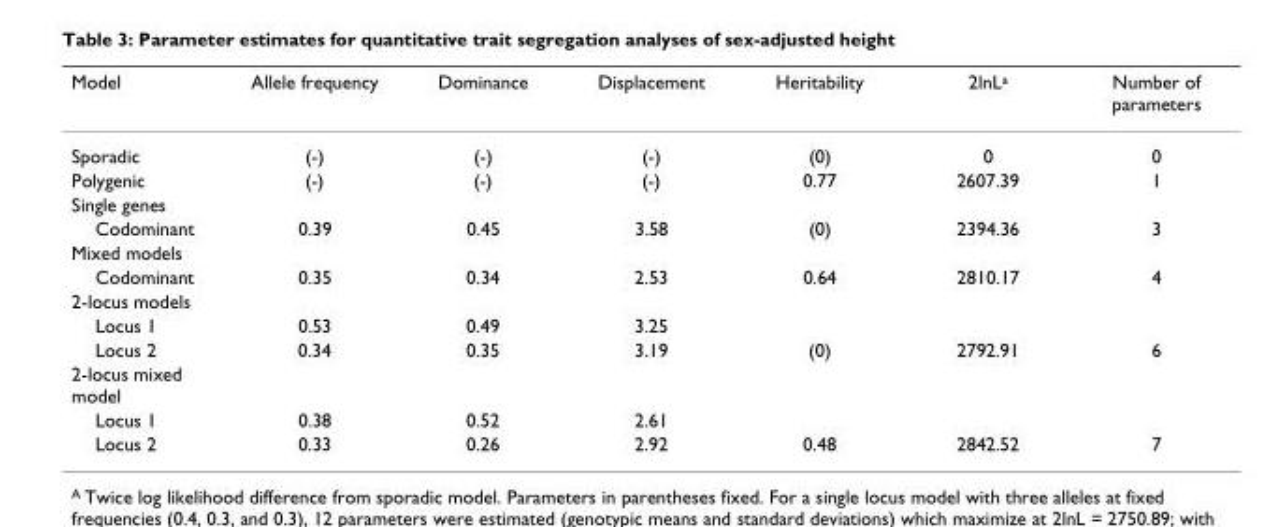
<table><thead><tr><td>Model</td><td>Allele frequency</td><td>Dominance</td><td>Displacement</td><td>Heritability</td><td>2lnLa</td><td>Number of parameters</td></tr></thead><tbody><tr><td>Sporadic</td><td>(-)</td><td>(-)</td><td>(-)</td><td>(0)</td><td>0</td><td>0</td></tr><tr><td>Polygenic</td><td>(-)</td><td>(-)</td><td>(-)</td><td>0.77</td><td>2607.39</td><td>1</td></tr><tr><td colspan="7">Single genes</td></tr><tr><td>Codominant</td><td>0.39</td><td>0.45</td><td>3.58</td><td>(0)</td><td>2394.36</td><td>3</td></tr><tr><td colspan="7">Mixed models</td></tr><tr><td>Codominant</td><td>0.35</td><td>0.34</td><td>2.53</td><td>0.64</td><td>2810.17</td><td>4</td></tr><tr><td colspan="7">2-locus models</td></tr><tr><td>Locus 1</td><td>0.53</td><td>0.49</td><td>3.25</td><td></td><td></td><td></td></tr><tr><td>Locus 2</td><td>0.34</td><td>0.35</td><td>3.19</td><td>(0)</td><td>2792.91</td><td>6</td></tr><tr><td colspan="7">2-locus mixed model</td></tr><tr><td>Locus 1</td><td>0.38</td><td>0.52</td><td>2.61</td><td></td><td></td><td></td></tr><tr><td>Locus 2</td><td>0.33</td><td>0.26</td><td>2.92</td><td>0.48</td><td>2842.52</td><td>7</td></tr></tbody></table>